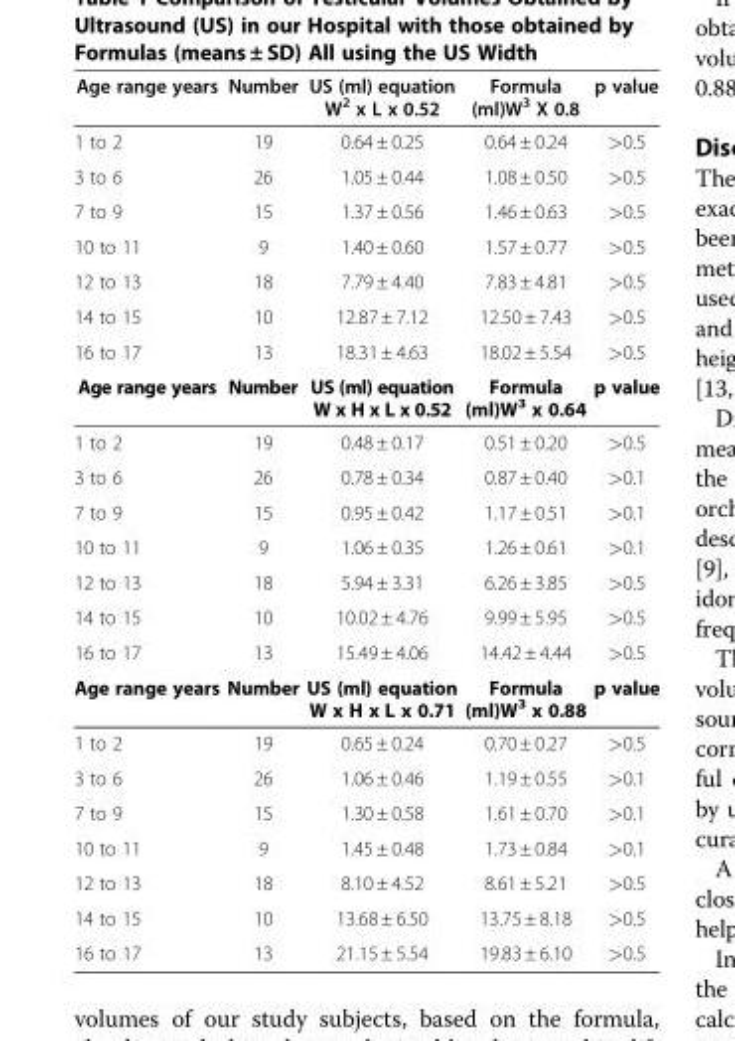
<table><thead><tr><td>Age range years</td><td>Number</td><td>US (ml) equation W<sup>2</sup> x L x 0.52</td><td>Formula (ml)W<sup>3</sup> X 0.8</td><td>p value</td></tr></thead><tbody><tr><td>1 to 2</td><td>19</td><td>0.64 ± 0.25</td><td>0.64 ± 0.24</td><td>&gt;0.5</td></tr><tr><td>3 to 6</td><td>26</td><td>1.05 ± 0.44</td><td>1.08 ± 0.50</td><td>&gt;0.5</td></tr><tr><td>7 to 9</td><td>15</td><td>1.37 ± 0.56</td><td>1.46 ± 0.63</td><td>&gt;0.5</td></tr><tr><td>10 to 11</td><td>9</td><td>1.40 ± 0.60</td><td>1.57 ± 0.77</td><td>&gt;0.5</td></tr><tr><td>12 to 13</td><td>18</td><td>7.79 ± 4.40</td><td>7.83 ± 4.81</td><td>&gt;0.5</td></tr><tr><td>14 to 15</td><td>10</td><td>12.87 ± 7.12</td><td>12.50 ± 7.43</td><td>&gt;0.5</td></tr><tr><td>16 to 17</td><td>13</td><td>18.31 ± 4.63</td><td>18.02 ± 5.54</td><td>&gt;0.5</td></tr><tr><td>Age range years</td><td>Number</td><td>US (ml) equation W x H x L x 0.52</td><td>Formula (ml)W<sup>3</sup> x 0.64</td><td>p value</td></tr><tr><td>1 to 2</td><td>19</td><td>0.48 ± 0.17</td><td>0.51 ± 0.20</td><td>&gt;0.5</td></tr><tr><td>3 to 6</td><td>26</td><td>0.78 ± 0.34</td><td>0.87 ± 0.40</td><td>&gt;0.1</td></tr><tr><td>7 to 9</td><td>15</td><td>0.95 ± 0.42</td><td>1.17 ± 0.51</td><td>&gt;0.1</td></tr><tr><td>10 to 11</td><td>9</td><td>1.06 ± 0.35</td><td>1.26 ± 0.61</td><td>&gt;0.1</td></tr><tr><td>12 to 13</td><td>18</td><td>5.94 ± 3.31</td><td>6.26 ± 3.85</td><td>&gt;0.5</td></tr><tr><td>14 to 15</td><td>10</td><td>10.02 ± 4.76</td><td>9.99 ± 5.95</td><td>&gt;0.5</td></tr><tr><td>16 to 17</td><td>13</td><td>15.49 ± 4.06</td><td>14.42 ± 4.44</td><td>&gt;0.5</td></tr><tr><td>Age range years</td><td>Number</td><td>US (ml) equation W x H x L x 0.71</td><td>Formula (ml)W<sup>3</sup> x 0.88</td><td>p value</td></tr><tr><td>1 to 2</td><td>19</td><td>0.65 ± 0.24</td><td>0.70 ± 0.27</td><td>&gt;0.5</td></tr><tr><td>3 to 6</td><td>26</td><td>1.06 ± 0.46</td><td>1.19 ± 0.55</td><td>&gt;0.1</td></tr><tr><td>7 to 9</td><td>15</td><td>1.30 ± 0.58</td><td>1.61 ± 0.70</td><td>&gt;0.1</td></tr><tr><td>10 to 11</td><td>9</td><td>1.45 ± 0.48</td><td>1.73 ± 0.84</td><td>&gt;0.1</td></tr><tr><td>12 to 13</td><td>18</td><td>8.10 ± 4.52</td><td>8.61 ± 5.21</td><td>&gt;0.5</td></tr><tr><td>14 to 15</td><td>10</td><td>13.68 ± 6.50</td><td>13.75 ± 8.18</td><td>&gt;0.5</td></tr><tr><td>16 to 17</td><td>13</td><td>21.15 ± 5.54</td><td>19.83 ± 6.10</td><td>&gt;0.5</td></tr></tbody></table>